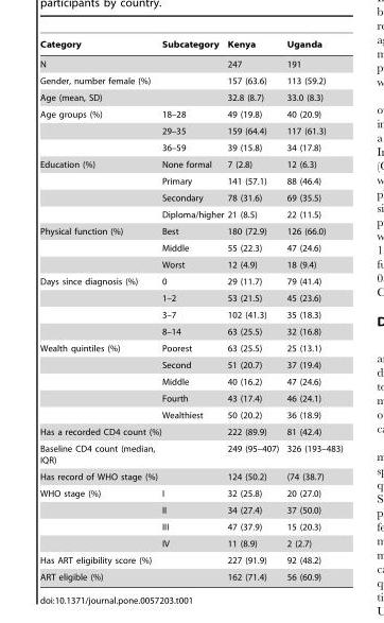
<table><thead><tr><td>Category</td><td>Subcategory</td><td>Kenya</td><td>Uganda</td></tr></thead><tbody><tr><td>N</td><td></td><td>247</td><td>191</td></tr><tr><td>Gender, number female (%)</td><td></td><td>157 (63.6)</td><td>113 (59.2)</td></tr><tr><td>Age (mean, SD)</td><td></td><td>32.8 (8.7)</td><td>33.0 (8.3)</td></tr><tr><td rowspan="3">Age groups (%)</td><td>18–28</td><td>49 (19.8)</td><td>40 (20.9)</td></tr><tr><td>29–35</td><td>159 (64.4)</td><td>117 (61.3)</td></tr><tr><td>36–59</td><td>39 (15.8)</td><td>34 (17.8)</td></tr><tr><td rowspan="4">Education (%)</td><td>None formal</td><td>7 (2.8)</td><td>12 (6.3)</td></tr><tr><td>Primary</td><td>141 (57.1)</td><td>88 (46.4)</td></tr><tr><td>Secondary</td><td>78 (31.6)</td><td>69 (35.5)</td></tr><tr><td>Diploma/higher</td><td>21 (8.5)</td><td>22 (11.5)</td></tr><tr><td rowspan="3">Physical function (%)</td><td>Best</td><td>180 (72.9)</td><td>126 (66.0)</td></tr><tr><td>Middle</td><td>55 (22.3)</td><td>47 (24.6)</td></tr><tr><td>Worst</td><td>12 (4.9)</td><td>18 (9.4)</td></tr><tr><td rowspan="4">Days since diagnosis (%)</td><td>0</td><td>29 (11.7)</td><td>79 (41.4)</td></tr><tr><td>1–2</td><td>53 (21.5)</td><td>45 (23.6)</td></tr><tr><td>3–7</td><td>102 (41.3)</td><td>35 (18.3)</td></tr><tr><td>8–14</td><td>63 (25.5)</td><td>32 (16.8)</td></tr><tr><td rowspan="5">Wealth quintiles (%)</td><td>Poorest</td><td>63 (25.5)</td><td>25 (13.1)</td></tr><tr><td>Second</td><td>51 (20.7)</td><td>37 (19.4)</td></tr><tr><td>Middle</td><td>40 (16.2)</td><td>47 (24.6)</td></tr><tr><td>Fourth</td><td>43 (17.4)</td><td>46 (24.1)</td></tr><tr><td>Wealthiest</td><td>50 (20.2)</td><td>36 (18.9)</td></tr><tr><td>Has a recorded CD4 count (%)</td><td></td><td>222 (89.9)</td><td>81 (42.4)</td></tr><tr><td>Baseline CD4 count (median, IQR)</td><td></td><td>249 (95–407)</td><td>326 (193–483)</td></tr><tr><td>Has record of WHO stage (%)</td><td></td><td>124 (50.2)</td><td>(74 (38.7)</td></tr><tr><td rowspan="4">WHO stage (%)</td><td>I</td><td>32 (25.8)</td><td>20 (27.0)</td></tr><tr><td>II</td><td>34 (27.4)</td><td>37 (50.0)</td></tr><tr><td>III</td><td>47 (37.9)</td><td>15 (20.3)</td></tr><tr><td>IV</td><td>11 (8.9)</td><td>2 (2.7)</td></tr><tr><td>Has ART eligibility score (%)</td><td></td><td>227 (91.9)</td><td>92 (48.2)</td></tr><tr><td>ART eligible (%)</td><td></td><td>162 (71.4)</td><td>56 (60.9)</td></tr></tbody></table>